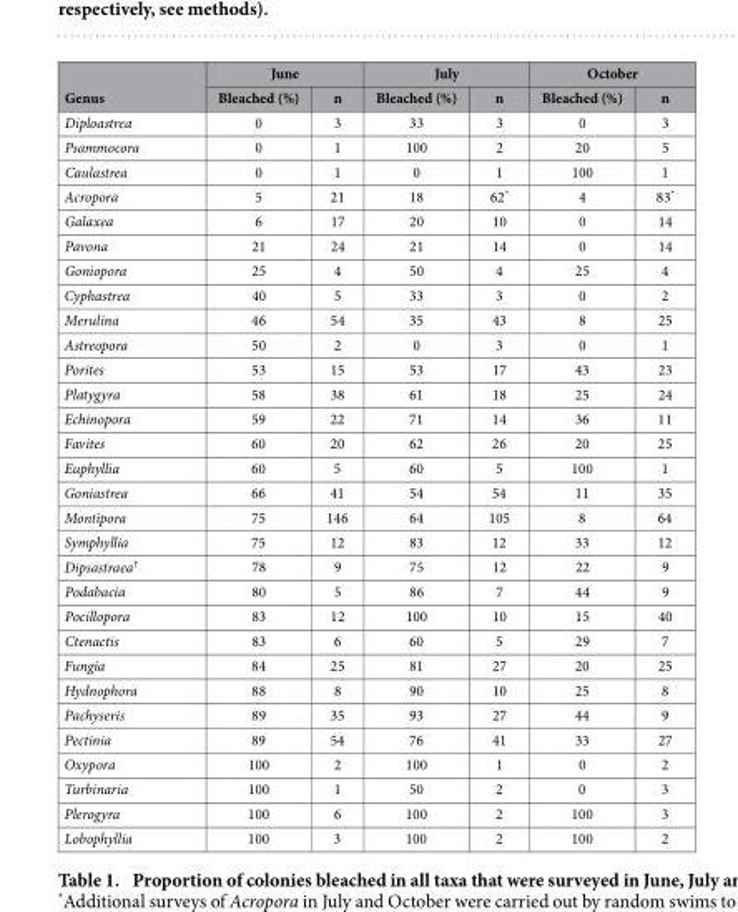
<table><thead><tr><td rowspan="2">Genus</td><td colspan="2">June</td><td colspan="2">July</td><td colspan="2">October</td></tr><tr><td>Bleached (%)</td><td>n</td><td>Bleached (%)</td><td>n</td><td>Bleached (%)</td><td>n</td></tr></thead><tbody><tr><td>Diploastrea</td><td>0</td><td>3</td><td>33</td><td>3</td><td>0</td><td>3</td></tr><tr><td>Psammocora</td><td>0</td><td>1</td><td>100</td><td>2</td><td>20</td><td>5</td></tr><tr><td>Caulastrea</td><td>0</td><td>1</td><td>0</td><td>1</td><td>100</td><td>1</td></tr><tr><td>Acropora</td><td>5</td><td>21</td><td>18</td><td>62*</td><td>4</td><td>83*</td></tr><tr><td>Galaxea</td><td>6</td><td>17</td><td>20</td><td>10</td><td>0</td><td>14</td></tr><tr><td>Pavona</td><td>21</td><td>24</td><td>21</td><td>14</td><td>0</td><td>14</td></tr><tr><td>Goniopora</td><td>25</td><td>4</td><td>50</td><td>4</td><td>25</td><td>4</td></tr><tr><td>Cyphastrea</td><td>40</td><td>5</td><td>33</td><td>3</td><td>0</td><td>2</td></tr><tr><td>Merulina</td><td>46</td><td>54</td><td>35</td><td>43</td><td>8</td><td>25</td></tr><tr><td>Astreopora</td><td>50</td><td>2</td><td>0</td><td>3</td><td>0</td><td>1</td></tr><tr><td>Porites</td><td>53</td><td>15</td><td>53</td><td>17</td><td>43</td><td>23</td></tr><tr><td>Platygyra</td><td>58</td><td>38</td><td>61</td><td>18</td><td>25</td><td>24</td></tr><tr><td>Echinopora</td><td>59</td><td>22</td><td>71</td><td>14</td><td>36</td><td>11</td></tr><tr><td>Favites</td><td>60</td><td>20</td><td>62</td><td>26</td><td>20</td><td>25</td></tr><tr><td>Euphyllia</td><td>60</td><td>5</td><td>60</td><td>5</td><td>100</td><td>1</td></tr><tr><td>Goniastrea</td><td>66</td><td>41</td><td>54</td><td>54</td><td>11</td><td>35</td></tr><tr><td>Montipora</td><td>75</td><td>146</td><td>64</td><td>105</td><td>8</td><td>64</td></tr><tr><td>Symphyllia</td><td>75</td><td>12</td><td>83</td><td>12</td><td>33</td><td>12</td></tr><tr><td>Dipsastraea†</td><td>78</td><td>9</td><td>75</td><td>12</td><td>22</td><td>9</td></tr><tr><td>Podabacia</td><td>80</td><td>5</td><td>86</td><td>7</td><td>44</td><td>9</td></tr><tr><td>Pocillopora</td><td>83</td><td>12</td><td>100</td><td>10</td><td>15</td><td>40</td></tr><tr><td>Ctenactis</td><td>83</td><td>6</td><td>60</td><td>5</td><td>29</td><td>7</td></tr><tr><td>Fungia</td><td>84</td><td>25</td><td>81</td><td>27</td><td>20</td><td>25</td></tr><tr><td>Hydnophora</td><td>88</td><td>8</td><td>90</td><td>10</td><td>25</td><td>8</td></tr><tr><td>Pachyseris</td><td>89</td><td>35</td><td>93</td><td>27</td><td>44</td><td>9</td></tr><tr><td>Pectinia</td><td>89</td><td>54</td><td>76</td><td>41</td><td>33</td><td>27</td></tr><tr><td>Oxypora</td><td>100</td><td>2</td><td>100</td><td>1</td><td>0</td><td>2</td></tr><tr><td>Turbinaria</td><td>100</td><td>1</td><td>50</td><td>2</td><td>0</td><td>3</td></tr><tr><td>Plerogyra</td><td>100</td><td>6</td><td>100</td><td>2</td><td>100</td><td>3</td></tr><tr><td>Lobophyllia</td><td>100</td><td>3</td><td>100</td><td>2</td><td>100</td><td>2</td></tr></tbody></table>